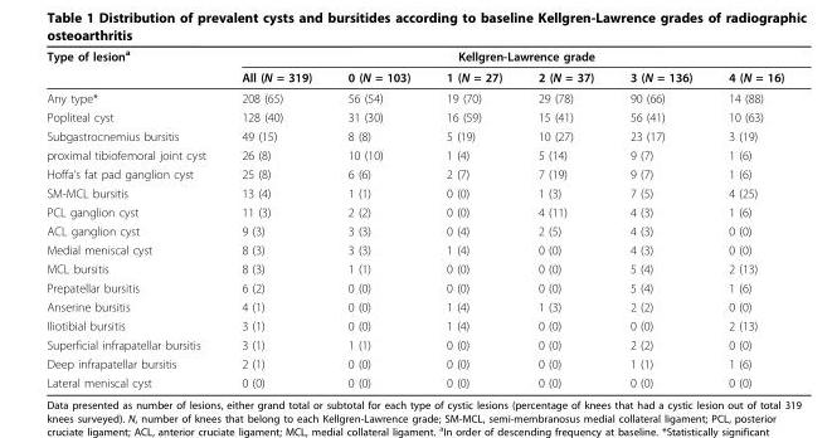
<table><thead><tr><td rowspan="2">Type of lesion<sup>a</sup></td><td colspan="6">Kellgren-Lawrence grade</td></tr><tr><td>All (N = 319)</td><td>0 (N = 103)</td><td>1 (N = 27)</td><td>2 (N = 37)</td><td>3 (N = 136)</td><td>4 (N = 16)</td></tr></thead><tbody><tr><td>Any type*</td><td>208 (65)</td><td>56 (54)</td><td>19 (70)</td><td>29 (78)</td><td>90 (66)</td><td>14 (88)</td></tr><tr><td>Popliteal cyst</td><td>128 (40)</td><td>31 (30)</td><td>16 (59)</td><td>15 (41)</td><td>56 (41)</td><td>10 (63)</td></tr><tr><td>Subgastrocnemius bursitis</td><td>49 (15)</td><td>8 (8)</td><td>5 (19)</td><td>10 (27)</td><td>23 (17)</td><td>3 (19)</td></tr><tr><td>proximal tibiofemoral joint cyst</td><td>26 (8)</td><td>10 (10)</td><td>1 (4)</td><td>5 (14)</td><td>9 (7)</td><td>1 (6)</td></tr><tr><td>Hoffa’s fat pad ganglion cyst</td><td>25 (8)</td><td>6 (6)</td><td>2 (7)</td><td>7 (19)</td><td>9 (7)</td><td>1 (6)</td></tr><tr><td>SM-MCL bursitis</td><td>13 (4)</td><td>1 (1)</td><td>0 (0)</td><td>1 (3)</td><td>7 (5)</td><td>4 (25)</td></tr><tr><td>PCL ganglion cyst</td><td>11 (3)</td><td>2 (2)</td><td>0 (0)</td><td>4 (11)</td><td>4 (3)</td><td>1 (6)</td></tr><tr><td>ACL ganglion cyst</td><td>9 (3)</td><td>3 (3)</td><td>0 (4)</td><td>2 (5)</td><td>4 (3)</td><td>0 (0)</td></tr><tr><td>Medial meniscal cyst</td><td>8 (3)</td><td>3 (3)</td><td>1 (4)</td><td>0 (0)</td><td>4 (3)</td><td>0 (0)</td></tr><tr><td>MCL bursitis</td><td>8 (3)</td><td>1 (1)</td><td>0 (0)</td><td>0 (0)</td><td>5 (4)</td><td>2 (13)</td></tr><tr><td>Prepatellar bursitis</td><td>6 (2)</td><td>0 (0)</td><td>0 (0)</td><td>0 (0)</td><td>5 (4)</td><td>1 (6)</td></tr><tr><td>Anserine bursitis</td><td>4 (1)</td><td>0 (0)</td><td>1 (4)</td><td>1 (3)</td><td>2 (2)</td><td>0 (0)</td></tr><tr><td>Iliotibial bursitis</td><td>3 (1)</td><td>0 (0)</td><td>1 (4)</td><td>0 (0)</td><td>0 (0)</td><td>2 (13)</td></tr><tr><td>Superficial infrapatellar bursitis</td><td>3 (1)</td><td>1 (1)</td><td>0 (0)</td><td>0 (0)</td><td>2 (2)</td><td>0 (0)</td></tr><tr><td>Deep infrapatellar bursitis</td><td>2 (1)</td><td>0 (0)</td><td>0 (0)</td><td>0 (0)</td><td>1 (1)</td><td>1 (6)</td></tr><tr><td>Lateral meniscal cyst</td><td>0 (0)</td><td>0 (0)</td><td>0 (0)</td><td>0 (0)</td><td>0 (0)</td><td>0 (0)</td></tr></tbody></table>